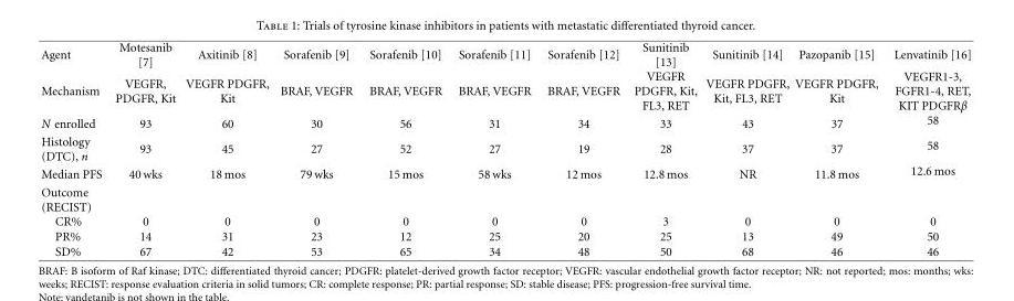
<table><tbody><tr><td>Agent</td><td>Motesanib [7]</td><td>Axitinib [8]</td><td>Sorafenib [9]</td><td>Sorafenib [10]</td><td>Sorafenib [11]</td><td>Sorafenib [12]</td><td>Sunitinib [13]</td><td>Sunitinib [14]</td><td>Pazopanib [15]</td><td>Lenvatinib [16]</td></tr><tr><td>Mechanism</td><td>VEGFR, PDGFR, Kit</td><td>VEGFR PDGFR, Kit</td><td>BRAF, VEGFR</td><td>BRAF, VEGFR</td><td>BRAF, VEGFR</td><td>BRAF, VEGFR</td><td>VEGFR PDGFR, Kit, FL3, RET</td><td>VEGFR PDGFR, Kit, FL3, RET</td><td>VEGFR PDGFR, Kit</td><td>VEGFR1-3, FGFR1-4, RET, KIT PDGFRβ</td></tr><tr><td>N enrolled</td><td>93</td><td>60</td><td>30</td><td>56</td><td>31</td><td>34</td><td>33</td><td>43</td><td>37</td><td>58</td></tr><tr><td>Histology (DTC), n</td><td>93</td><td>45</td><td>27</td><td>52</td><td>27</td><td>19</td><td>28</td><td>37</td><td>37</td><td>58</td></tr><tr><td>Median PFS</td><td>40 wks</td><td>18 mos</td><td>79 wks</td><td>15 mos</td><td>58 wks</td><td>12 mos</td><td>12.8 mos</td><td>NR</td><td>11.8 mos</td><td>12.6 mos</td></tr><tr><td colspan="11">Outcome (RECIST)</td></tr><tr><td>CR%</td><td>0</td><td>0</td><td>0</td><td>0</td><td>0</td><td>0</td><td>3</td><td>0</td><td>0</td><td>0</td></tr><tr><td>PR%</td><td>14</td><td>31</td><td>23</td><td>12</td><td>25</td><td>20</td><td>25</td><td>13</td><td>49</td><td>50</td></tr><tr><td>SD%</td><td>67</td><td>42</td><td>53</td><td>65</td><td>34</td><td>48</td><td>50</td><td>68</td><td>46</td><td>46</td></tr></tbody></table>